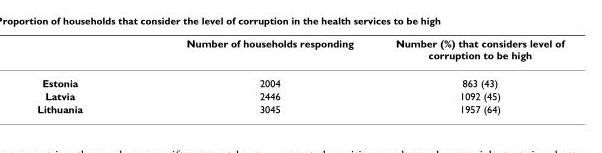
<table><thead><tr><td></td><td>Number of households responding</td><td>Number (%) that considers level of corruption to be high</td></tr></thead><tbody><tr><td>Estonia</td><td>2004</td><td>863 (43)</td></tr><tr><td>Latvia</td><td>2446</td><td>1092 (45)</td></tr><tr><td>Lithuania</td><td>3045</td><td>1957 (64)</td></tr></tbody></table>